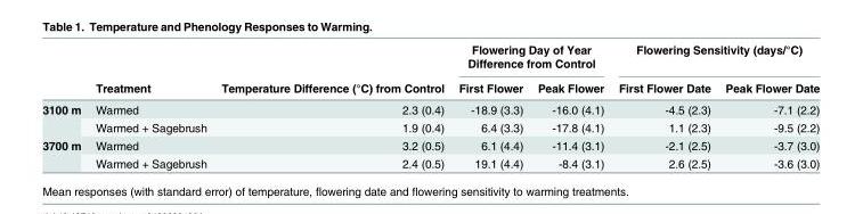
<table><thead><tr><td rowspan="2"></td><td rowspan="2">Treatment</td><td rowspan="2">Temperature Difference (°C) from Control</td><td colspan="2">Flowering Day of Year Difference from Control</td><td colspan="2">Flowering Sensitivity (days/°C)</td></tr><tr><td>First Flower</td><td>Peak Flower</td><td>First Flower Date</td><td>Peak Flower Date</td></tr></thead><tbody><tr><td rowspan="2">3100 m</td><td>Warmed</td><td>2.3 (0.4)</td><td>-18.9 (3.3)</td><td>-16.0 (4.1)</td><td>-4.5 (2.3)</td><td>-7.1 (2.2)</td></tr><tr><td>Warmed + Sagebrush</td><td>1.9 (0.4)</td><td>6.4 (3.3)</td><td>-17.8 (4.1)</td><td>1.1 (2.3)</td><td>-9.5 (2.2)</td></tr><tr><td rowspan="2">3700 m</td><td>Warmed</td><td>3.2 (0.5)</td><td>6.1 (4.4)</td><td>-11.4 (3.1)</td><td>-2.1 (2.5)</td><td>-3.7 (3.0)</td></tr><tr><td>Warmed + Sagebrush</td><td>2.4 (0.5)</td><td>19.1 (4.4)</td><td>-8.4 (3.1)</td><td>2.6 (2.5)</td><td>-3.6 (3.0)</td></tr></tbody></table>